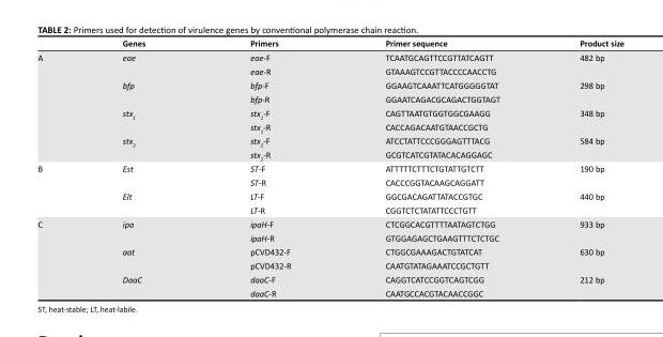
<table><thead><tr><td></td><td>Genes</td><td>Primers</td><td>Primer sequence</td><td>Product size</td></tr></thead><tbody><tr><td rowspan="8">A</td><td rowspan="2">eae</td><td>eae-F</td><td>TCAATGCAGTTCCGTTATCAGTT</td><td>482 bp</td></tr><tr><td>eae-R</td><td>GTAAAGTCCGTTACCCCAACCTG</td><td></td></tr><tr><td rowspan="2">bfp</td><td>bfp-F</td><td>GGAAGTCAAATTCATGGGGGTAT</td><td>298 bp</td></tr><tr><td>bfp-R</td><td>GGAATCAGACGCAGACTGGTAGT</td><td></td></tr><tr><td rowspan="2">stx<sub>1</sub></td><td>stx<sub>1</sub>-F</td><td>CAGTTAATGTGGTGGCGAAGG</td><td>348 bp</td></tr><tr><td>stx<sub>1</sub>-R</td><td>CACCAGACAATGTAACCGCTG</td><td></td></tr><tr><td rowspan="2">stx<sub>2</sub></td><td>stx<sub>2</sub>-F</td><td>ATCCTATTCCCGGGAGTTTACG</td><td>584 bp</td></tr><tr><td>stx<sub>2</sub>-R</td><td>GCGTCATCGTATACACAGGAGC</td><td></td></tr><tr><td rowspan="4">B</td><td rowspan="2">Est</td><td>ST-F</td><td>ATTTTTCTTTCTGTATTGTCTT</td><td>190 bp</td></tr><tr><td>ST-R</td><td>CACCCGGTACAAGCAGGATT</td><td></td></tr><tr><td rowspan="2">Elt</td><td>LT-F</td><td>GGCGACAGATTATACCGTGC</td><td>440 bp</td></tr><tr><td>LT-R</td><td>CGGTCTCTATATTCCCTGTT</td><td></td></tr><tr><td rowspan="6">C</td><td rowspan="2">ipa</td><td>ipaH-F</td><td>CTCGGCACGTTTTAATAGTCTGG</td><td>933 bp</td></tr><tr><td>ipaH-R</td><td>GTGGAGAGCTGAAGTTTCTCTGC</td><td></td></tr><tr><td rowspan="2">aat</td><td>pCVD432-F</td><td>CTGGCGAAAGACTGTATCAT</td><td>630 bp</td></tr><tr><td>pCVD432-R</td><td>CAATGTATAGAAATCCGCTGTT</td><td></td></tr><tr><td rowspan="2">DaaC</td><td>daaC-F</td><td>CAGGTCATCCGGTCAGTCGG</td><td>212 bp</td></tr><tr><td>daaC-R</td><td>CAATGCCACGTACAACCGGC</td><td></td></tr></tbody></table>